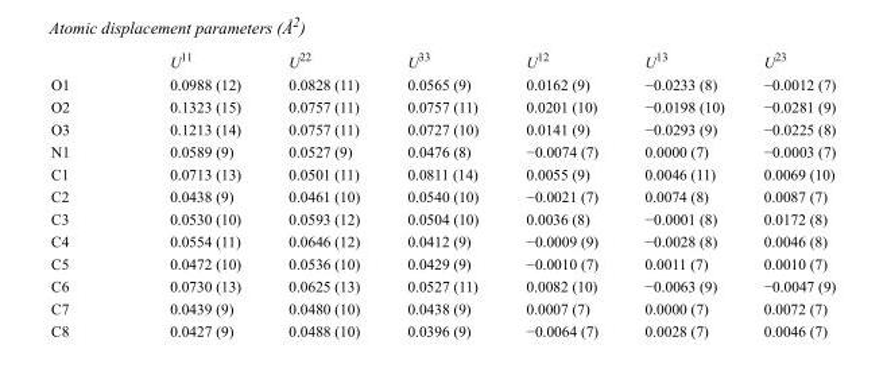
<table><thead><tr><td></td><td>U<sup>11</sup></td><td>U<sup>22</sup></td><td>U<sup>33</sup></td><td>U<sup>12</sup></td><td>U<sup>13</sup></td><td>U<sup>23</sup></td></tr></thead><tbody><tr><td>O1</td><td>0.0988 (12)</td><td>0.0828 (11)</td><td>0.0565 (9)</td><td>0.0162 (9)</td><td>−0.0233 (8)</td><td>−0.0012 (7)</td></tr><tr><td>O2</td><td>0.1323 (15)</td><td>0.0757 (11)</td><td>0.0757 (11)</td><td>0.0201 (10)</td><td>−0.0198 (10)</td><td>−0.0281 (9)</td></tr><tr><td>O3</td><td>0.1213 (14)</td><td>0.0757 (11)</td><td>0.0727 (10)</td><td>0.0141 (9)</td><td>−0.0293 (9)</td><td>−0.0225 (8)</td></tr><tr><td>N1</td><td>0.0589 (9)</td><td>0.0527 (9)</td><td>0.0476 (8)</td><td>−0.0074 (7)</td><td>0.0000 (7)</td><td>−0.0003 (7)</td></tr><tr><td>C1</td><td>0.0713 (13)</td><td>0.0501 (11)</td><td>0.0811 (14)</td><td>0.0055 (9)</td><td>0.0046 (11)</td><td>0.0069 (10)</td></tr><tr><td>C2</td><td>0.0438 (9)</td><td>0.0461 (10)</td><td>0.0540 (10)</td><td>−0.0021 (7)</td><td>0.0074 (8)</td><td>0.0087 (7)</td></tr><tr><td>C3</td><td>0.0530 (10)</td><td>0.0593 (12)</td><td>0.0504 (10)</td><td>0.0036 (8)</td><td>−0.0001 (8)</td><td>0.0172 (8)</td></tr><tr><td>C4</td><td>0.0554 (11)</td><td>0.0646 (12)</td><td>0.0412 (9)</td><td>−0.0009 (9)</td><td>−0.0028 (8)</td><td>0.0046 (8)</td></tr><tr><td>C5</td><td>0.0472 (10)</td><td>0.0536 (10)</td><td>0.0429 (9)</td><td>−0.0010 (7)</td><td>0.0011 (7)</td><td>0.0010 (7)</td></tr><tr><td>C6</td><td>0.0730 (13)</td><td>0.0625 (13)</td><td>0.0527 (11)</td><td>0.0082 (10)</td><td>−0.0063 (9)</td><td>−0.0047 (9)</td></tr><tr><td>C7</td><td>0.0439 (9)</td><td>0.0480 (10)</td><td>0.0438 (9)</td><td>0.0007 (7)</td><td>0.0000 (7)</td><td>0.0072 (7)</td></tr><tr><td>C8</td><td>0.0427 (9)</td><td>0.0488 (10)</td><td>0.0396 (9)</td><td>−0.0064 (7)</td><td>0.0028 (7)</td><td>0.0046 (7)</td></tr></tbody></table>